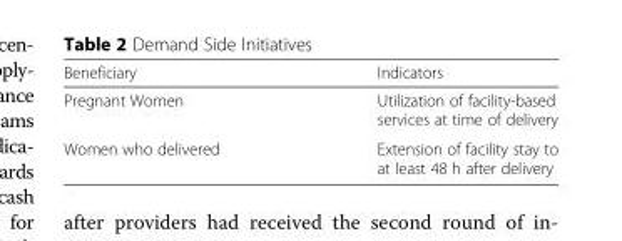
<table><thead><tr><td>Beneficiary</td><td>Indicators</td></tr></thead><tbody><tr><td>Pregnant Women</td><td>Utilization of facility-based services at time of delivery</td></tr><tr><td>Women who delivered</td><td>Extension of facility stay to at least 48 h after delivery</td></tr></tbody></table>